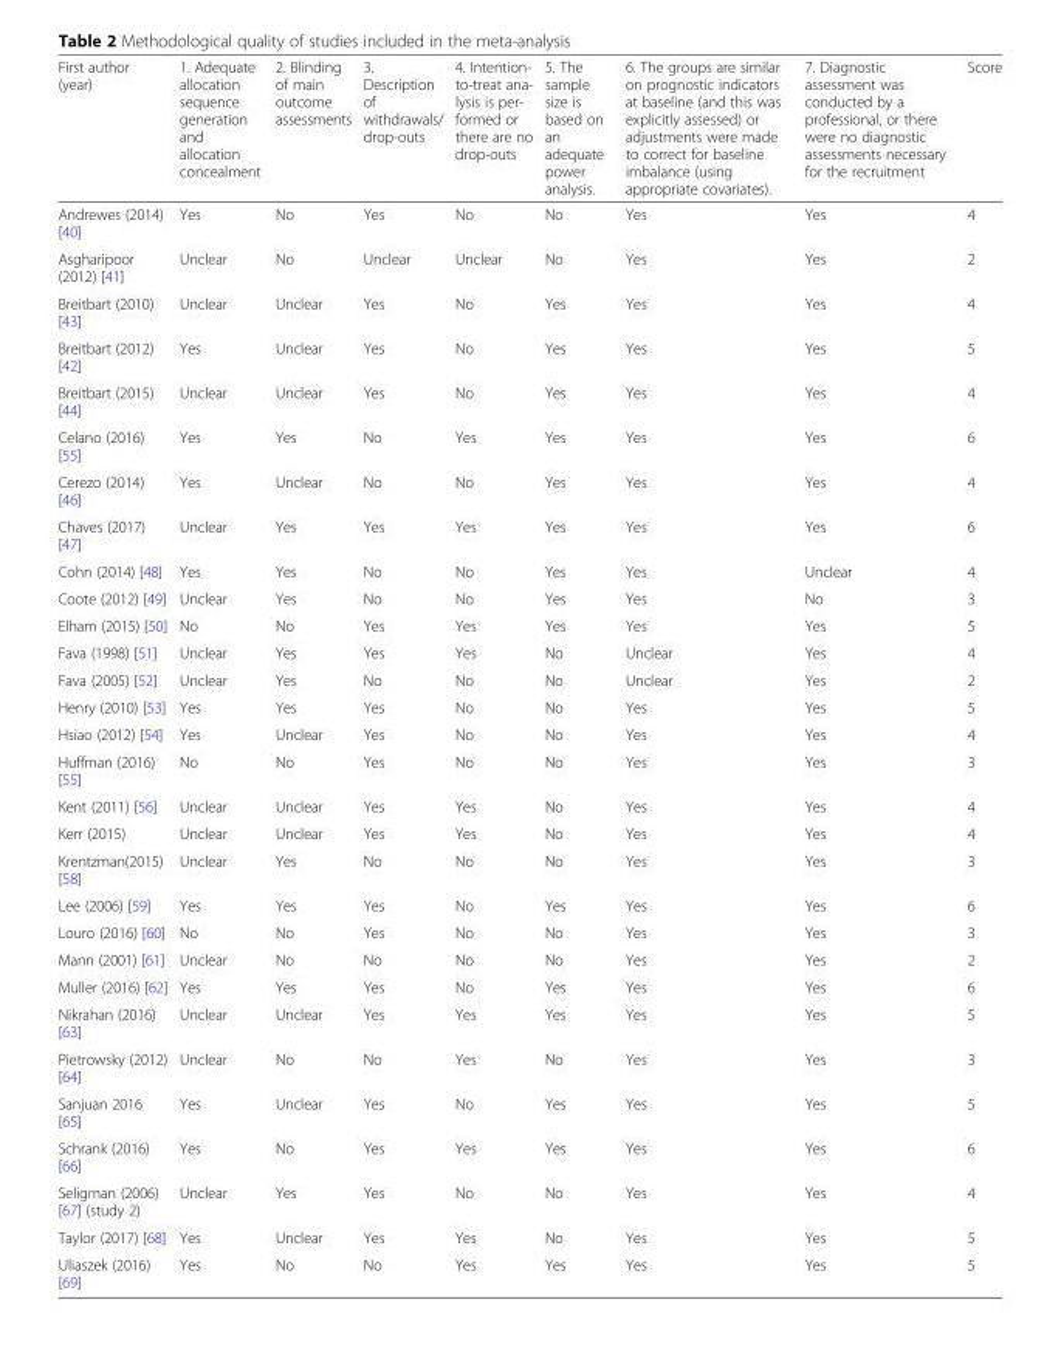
<table><thead><tr><td>First author (year)</td><td>1. Adequate allocation sequence generation and allocation concealment</td><td>2. Blinding of main outcome assessments</td><td>3. Description of withdrawals/ drop-outs</td><td>4. Intention- to-treat ana- lysis is per- formed or there are no drop-outs</td><td>5. The sample size is based on an adequate power analysis.</td><td>6. The groups are similar on prognostic indicators at baseline (and this was explicitly assessed) or adjustments were made to correct for baseline imbalance (using appropriate covariates).</td><td>7. Diagnostic assessment was conducted by a professional, or there were no diagnostic assessments necessary for the recruitment</td><td>Score</td></tr></thead><tbody><tr><td>Andrewes (2014) [40]</td><td>Yes</td><td>No</td><td>Yes</td><td>No</td><td>No</td><td>Yes</td><td>Yes</td><td>4</td></tr><tr><td>Asgharipoor (2012) [41]</td><td>Unclear</td><td>No</td><td>Unclear</td><td>Unclear</td><td>No</td><td>Yes</td><td>Yes</td><td>2</td></tr><tr><td>Breitbart (2010) [43]</td><td>Unclear</td><td>Unclear</td><td>Yes</td><td>No</td><td>Yes</td><td>Yes</td><td>Yes</td><td>4</td></tr><tr><td>Breitbart (2012) [42]</td><td>Yes</td><td>Unclear</td><td>Yes</td><td>No</td><td>Yes</td><td>Yes</td><td>Yes</td><td>5</td></tr><tr><td>Breitbart (2015) [44]</td><td>Unclear</td><td>Unclear</td><td>Yes</td><td>No</td><td>Yes</td><td>Yes</td><td>Yes</td><td>4</td></tr><tr><td>Celano (2016) [55]</td><td>Yes</td><td>Yes</td><td>No</td><td>Yes</td><td>Yes</td><td>Yes</td><td>Yes</td><td>6</td></tr><tr><td>Cerezo (2014) [46]</td><td>Yes</td><td>Unclear</td><td>No</td><td>No</td><td>Yes</td><td>Yes</td><td>Yes</td><td>4</td></tr><tr><td>Chaves (2017) [47]</td><td>Unclear</td><td>Yes</td><td>Yes</td><td>Yes</td><td>Yes</td><td>Yes</td><td>Yes</td><td>6</td></tr><tr><td>Cohn (2014) [48]</td><td>Yes</td><td>Yes</td><td>No</td><td>No</td><td>Yes</td><td>Yes</td><td>Unclear</td><td>4</td></tr><tr><td>Coote (2012) [49]</td><td>Unclear</td><td>Yes</td><td>No</td><td>No</td><td>Yes</td><td>Yes</td><td>No</td><td>3</td></tr><tr><td>Elham (2015) [50]</td><td>No</td><td>No</td><td>Yes</td><td>Yes</td><td>Yes</td><td>Yes</td><td>Yes</td><td>5</td></tr><tr><td>Fava (1998) [51]</td><td>Unclear</td><td>Yes</td><td>Yes</td><td>Yes</td><td>No</td><td>Unclear</td><td>Yes</td><td>4</td></tr><tr><td>Fava (2005) [52]</td><td>Unclear</td><td>Yes</td><td>No</td><td>No</td><td>No</td><td>Unclear</td><td>Yes</td><td>2</td></tr><tr><td>Henry (2010) [53]</td><td>Yes</td><td>Yes</td><td>Yes</td><td>No</td><td>No</td><td>Yes</td><td>Yes</td><td>5</td></tr><tr><td>Hsiao (2012) [54]</td><td>Yes</td><td>Unclear</td><td>Yes</td><td>No</td><td>No</td><td>Yes</td><td>Yes</td><td>4</td></tr><tr><td>Huffman (2016) [55]</td><td>No</td><td>No</td><td>Yes</td><td>No</td><td>No</td><td>Yes</td><td>Yes</td><td>3</td></tr><tr><td>Kent (2011) [56]</td><td>Unclear</td><td>Unclear</td><td>Yes</td><td>Yes</td><td>No</td><td>Yes</td><td>Yes</td><td>4</td></tr><tr><td>Kerr (2015)</td><td>Unclear</td><td>Unclear</td><td>Yes</td><td>Yes</td><td>No</td><td>Yes</td><td>Yes</td><td>4</td></tr><tr><td>Krentzman(2015) [58]</td><td>Unclear</td><td>Yes</td><td>No</td><td>No</td><td>No</td><td>Yes</td><td>Yes</td><td>3</td></tr><tr><td>Lee (2006) [59]</td><td>Yes</td><td>Yes</td><td>Yes</td><td>No</td><td>Yes</td><td>Yes</td><td>Yes</td><td>6</td></tr><tr><td>Louro (2016) [60]</td><td>No</td><td>No</td><td>Yes</td><td>No</td><td>No</td><td>Yes</td><td>Yes</td><td>3</td></tr><tr><td>Mann (2001) [61]</td><td>Unclear</td><td>No</td><td>No</td><td>No</td><td>No</td><td>Yes</td><td>Yes</td><td>2</td></tr><tr><td>Muller (2016) [62]</td><td>Yes</td><td>Yes</td><td>Yes</td><td>No</td><td>Yes</td><td>Yes</td><td>Yes</td><td>6</td></tr><tr><td>Nikrahan (2016) [63]</td><td>Unclear</td><td>Unclear</td><td>Yes</td><td>Yes</td><td>Yes</td><td>Yes</td><td>Yes</td><td>5</td></tr><tr><td>Pietrowsky (2012) [64]</td><td>Unclear</td><td>No</td><td>No</td><td>Yes</td><td>No</td><td>Yes</td><td>Yes</td><td>3</td></tr><tr><td>Sanjuan 2016 [65]</td><td>Yes</td><td>Unclear</td><td>Yes</td><td>No</td><td>Yes</td><td>Yes</td><td>Yes</td><td>5</td></tr><tr><td>Schrank (2016) [66]</td><td>Yes</td><td>No</td><td>Yes</td><td>Yes</td><td>Yes</td><td>Yes</td><td>Yes</td><td>6</td></tr><tr><td>Seligman (2006) [67] (study 2)</td><td>Unclear</td><td>Yes</td><td>Yes</td><td>No</td><td>No</td><td>Yes</td><td>Yes</td><td>4</td></tr><tr><td>Taylor (2017) [68]</td><td>Yes</td><td>Unclear</td><td>Yes</td><td>Yes</td><td>No</td><td>Yes</td><td>Yes</td><td>5</td></tr><tr><td>Uliaszek (2016) [69]</td><td>Yes</td><td>No</td><td>No</td><td>Yes</td><td>Yes</td><td>Yes</td><td>Yes</td><td>5</td></tr></tbody></table>